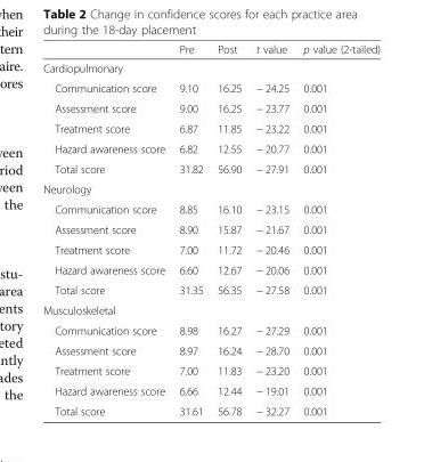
<table><thead><tr><td></td><td>Pre</td><td>Post</td><td>t value</td><td>p value (2-tailed)</td></tr></thead><tbody><tr><td colspan="5">Cardiopulmonary</td></tr><tr><td>Communication score</td><td>9.10</td><td>16.25</td><td>− 24.25</td><td>0.001</td></tr><tr><td>Assessment score</td><td>9.00</td><td>16.25</td><td>− 23.77</td><td>0.001</td></tr><tr><td>Treatment score</td><td>6.87</td><td>11.85</td><td>− 23.22</td><td>0.001</td></tr><tr><td>Hazard awareness score</td><td>6.82</td><td>12.55</td><td>− 20.77</td><td>0.001</td></tr><tr><td>Total score</td><td>31.82</td><td>56.90</td><td>− 27.91</td><td>0.001</td></tr><tr><td colspan="5">Neurology</td></tr><tr><td>Communication score</td><td>8.85</td><td>16.10</td><td>− 23.15</td><td>0.001</td></tr><tr><td>Assessment score</td><td>8.90</td><td>15.87</td><td>− 21.67</td><td>0.001</td></tr><tr><td>Treatment score</td><td>7.00</td><td>11.72</td><td>− 20.46</td><td>0.001</td></tr><tr><td>Hazard awareness score</td><td>6.60</td><td>12.67</td><td>− 20.06</td><td>0.001</td></tr><tr><td>Total score</td><td>31.35</td><td>56.35</td><td>− 27.58</td><td>0.001</td></tr><tr><td colspan="5">Musculoskeletal</td></tr><tr><td>Communication score</td><td>8.98</td><td>16.27</td><td>− 27.29</td><td>0.001</td></tr><tr><td>Assessment score</td><td>8.97</td><td>16.24</td><td>− 28.70</td><td>0.001</td></tr><tr><td>Treatment score</td><td>7.00</td><td>11.83</td><td>− 23.20</td><td>0.001</td></tr><tr><td>Hazard awareness score</td><td>6.66</td><td>12.44</td><td>− 19.01</td><td>0.001</td></tr><tr><td>Total score</td><td>31.61</td><td>56.78</td><td>− 32.27</td><td>0.001</td></tr></tbody></table>